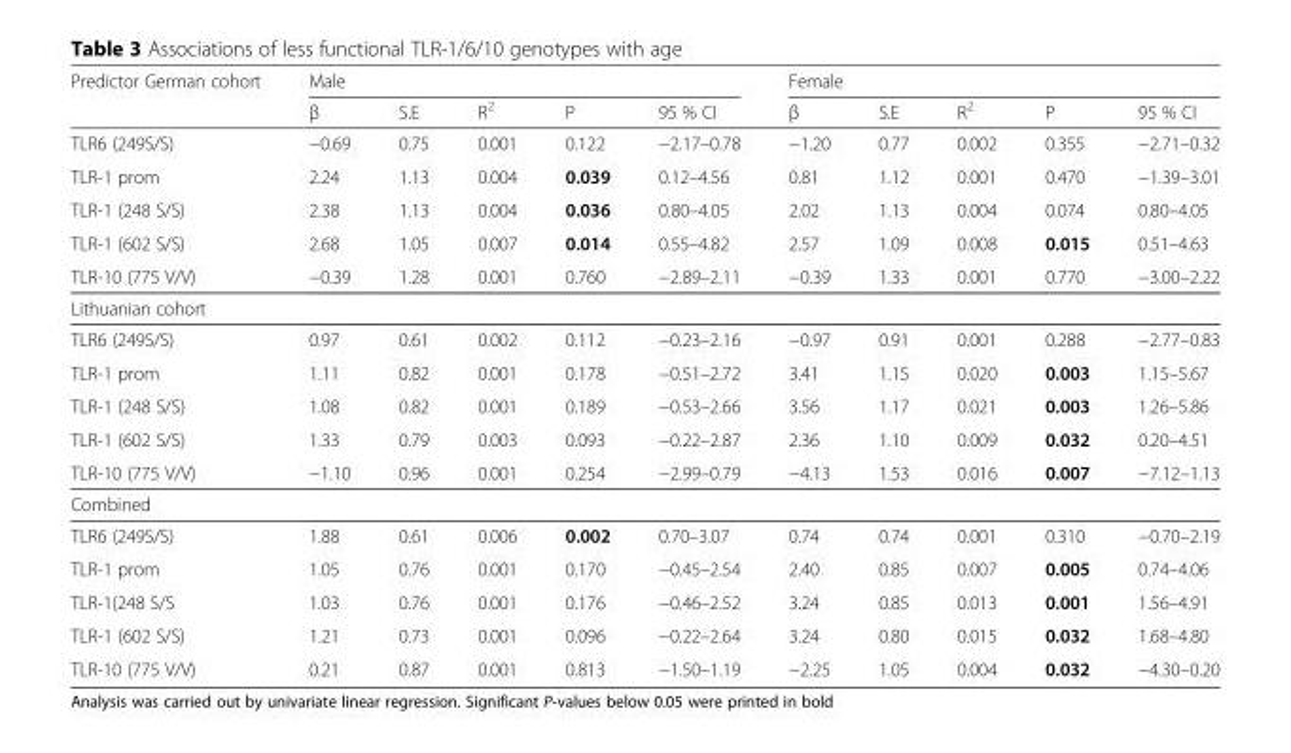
<table><thead><tr><td rowspan="2">Predictor German cohort</td><td colspan="5">Male</td><td colspan="5">Female</td></tr><tr><td>β</td><td>S.E</td><td>R<sup>2</sup></td><td>P</td><td>95 % CI</td><td>β</td><td>S.E</td><td>R<sup>2</sup></td><td>P</td><td>95 % CI</td></tr></thead><tbody><tr><td>TLR6 (249S/S)</td><td>−0.69</td><td>0.75</td><td>0.001</td><td>0.122</td><td>−2.17–0.78</td><td>−1.20</td><td>0.77</td><td>0.002</td><td>0.355</td><td>−2.71–0.32</td></tr><tr><td>TLR-1 prom</td><td>2.24</td><td>1.13</td><td>0.004</td><td>0.039</td><td>0.12–4.56</td><td>0.81</td><td>1.12</td><td>0.001</td><td>0.470</td><td>−1.39–3.01</td></tr><tr><td>TLR-1 (248 S/S)</td><td>2.38</td><td>1.13</td><td>0.004</td><td>0.036</td><td>0.80–4.05</td><td>2.02</td><td>1.13</td><td>0.004</td><td>0.074</td><td>0.80–4.05</td></tr><tr><td>TLR-1 (602 S/S)</td><td>2.68</td><td>1.05</td><td>0.007</td><td>0.014</td><td>0.55–4.82</td><td>2.57</td><td>1.09</td><td>0.008</td><td>0.015</td><td>0.51–4.63</td></tr><tr><td>TLR-10 (775 V/V)</td><td>−0.39</td><td>1.28</td><td>0.001</td><td>0.760</td><td>−2.89–2.11</td><td>−0.39</td><td>1.33</td><td>0.001</td><td>0.770</td><td>−3.00–2.22</td></tr><tr><td colspan="11">Lithuanian cohort</td></tr><tr><td>TLR6 (249S/S)</td><td>0.97</td><td>0.61</td><td>0.002</td><td>0.112</td><td>−0.23–2.16</td><td>−0.97</td><td>0.91</td><td>0.001</td><td>0.288</td><td>−2.77–0.83</td></tr><tr><td>TLR-1 prom</td><td>1.11</td><td>0.82</td><td>0.001</td><td>0.178</td><td>−0.51–2.72</td><td>3.41</td><td>1.15</td><td>0.020</td><td>0.003</td><td>1.15–5.67</td></tr><tr><td>TLR-1 (248 S/S)</td><td>1.08</td><td>0.82</td><td>0.001</td><td>0.189</td><td>−0.53–2.66</td><td>3.56</td><td>1.17</td><td>0.021</td><td>0.003</td><td>1.26–5.86</td></tr><tr><td>TLR-1 (602 S/S)</td><td>1.33</td><td>0.79</td><td>0.003</td><td>0.093</td><td>−0.22–2.87</td><td>2.36</td><td>1.10</td><td>0.009</td><td>0.032</td><td>0.20–4.51</td></tr><tr><td>TLR-10 (775 V/V)</td><td>−1.10</td><td>0.96</td><td>0.001</td><td>0.254</td><td>−2.99–0.79</td><td>−4.13</td><td>1.53</td><td>0.016</td><td>0.007</td><td>−7.12–1.13</td></tr><tr><td colspan="11">Combined</td></tr><tr><td>TLR6 (249S/S)</td><td>1.88</td><td>0.61</td><td>0.006</td><td>0.002</td><td>0.70–3.07</td><td>0.74</td><td>0.74</td><td>0.001</td><td>0.310</td><td>−0.70–2.19</td></tr><tr><td>TLR-1 prom</td><td>1.05</td><td>0.76</td><td>0.001</td><td>0.170</td><td>−0.45–2.54</td><td>2.40</td><td>0.85</td><td>0.007</td><td>0.005</td><td>0.74–4.06</td></tr><tr><td>TLR-1(248 S/S</td><td>1.03</td><td>0.76</td><td>0.001</td><td>0.176</td><td>−0.46–2.52</td><td>3.24</td><td>0.85</td><td>0.013</td><td>0.001</td><td>1.56–4.91</td></tr><tr><td>TLR-1 (602 S/S)</td><td>1.21</td><td>0.73</td><td>0.001</td><td>0.096</td><td>−0.22–2.64</td><td>3.24</td><td>0.80</td><td>0.015</td><td>0.032</td><td>1.68–4.80</td></tr><tr><td>TLR-10 (775 V/V)</td><td>0.21</td><td>0.87</td><td>0.001</td><td>0.813</td><td>−1.50–1.19</td><td>−2.25</td><td>1.05</td><td>0.004</td><td>0.032</td><td>−4.30–0.20</td></tr></tbody></table>